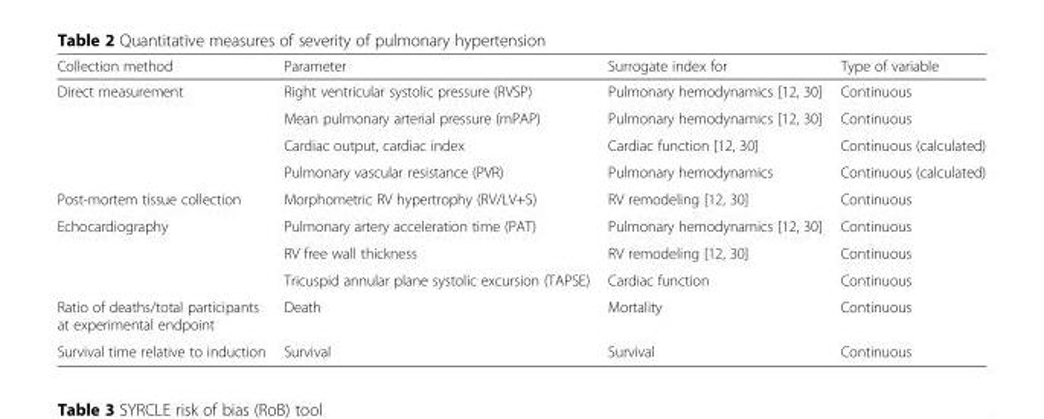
<table><thead><tr><td>Collection method</td><td>Parameter</td><td>Surrogate index for</td><td>Type of variable</td></tr></thead><tbody><tr><td rowspan="4">Direct measurement</td><td>Right ventricular systolic pressure (RVSP)</td><td>Pulmonary hemodynamics [12, 30]</td><td>Continuous</td></tr><tr><td>Mean pulmonary arterial pressure (mPAP)</td><td>Pulmonary hemodynamics [12, 30]</td><td>Continuous</td></tr><tr><td>Cardiac output, cardiac index</td><td>Cardiac function [12, 30]</td><td>Continuous (calculated)</td></tr><tr><td>Pulmonary vascular resistance (PVR)</td><td>Pulmonary hemodynamics</td><td>Continuous (calculated)</td></tr><tr><td>Post-mortem tissue collection</td><td>Morphometric RV hypertrophy (RV/LV+S)</td><td>RV remodeling [12, 30]</td><td>Continuous</td></tr><tr><td rowspan="3">Echocardiography</td><td>Pulmonary artery acceleration time (PAT)</td><td>Pulmonary hemodynamics [12, 30]</td><td>Continuous</td></tr><tr><td>RV free wall thickness</td><td>RV remodeling [12, 30]</td><td>Continuous</td></tr><tr><td>Tricuspid annular plane systolic excursion (TAPSE)</td><td>Cardiac function</td><td>Continuous</td></tr><tr><td>Ratio of deaths/total participants at experimental endpoint</td><td>Death</td><td>Mortality</td><td>Continuous</td></tr><tr><td>Survival time relative to induction</td><td>Survival</td><td>Survival</td><td>Continuous</td></tr></tbody></table>